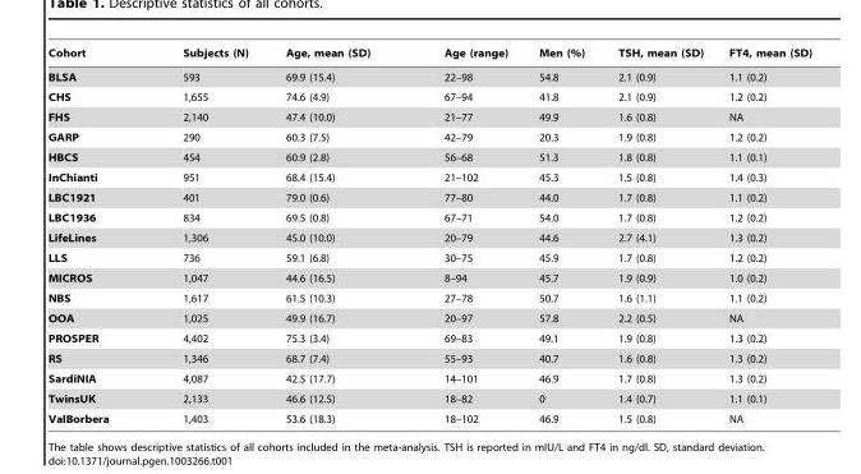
<table><thead><tr><td>Cohort</td><td>Subjects (N)</td><td>Age, mean (SD)</td><td>Age (range)</td><td>Men (%)</td><td>TSH, mean (SD)</td><td>FT4, mean (SD)</td></tr></thead><tbody><tr><td>BLSA</td><td>593</td><td>69.9 (15.4)</td><td>22–98</td><td>54.8</td><td>2.1 (0.9)</td><td>1.1 (0.2)</td></tr><tr><td>CHS</td><td>1,655</td><td>74.6 (4.9)</td><td>67–94</td><td>41.8</td><td>2.1 (0.9)</td><td>1.2 (0.2)</td></tr><tr><td>FHS</td><td>2,140</td><td>47.4 (10.0)</td><td>21–77</td><td>49.9</td><td>1.6 (0.8)</td><td>NA</td></tr><tr><td>GARP</td><td>290</td><td>60.3 (7.5)</td><td>42–79</td><td>20.3</td><td>1.9 (0.8)</td><td>1.2 (0.2)</td></tr><tr><td>HBCS</td><td>454</td><td>60.9 (2.8)</td><td>56–68</td><td>51.3</td><td>1.8 (0.8)</td><td>1.1 (0.1)</td></tr><tr><td>InChianti</td><td>951</td><td>68.4 (15.4)</td><td>21–102</td><td>45.3</td><td>1.5 (0.8)</td><td>1.4 (0.3)</td></tr><tr><td>LBC1921</td><td>401</td><td>79.0 (0.6)</td><td>77–80</td><td>44.0</td><td>1.7 (0.8)</td><td>1.1 (0.2)</td></tr><tr><td>LBC1936</td><td>834</td><td>69.5 (0.8)</td><td>67–71</td><td>54.0</td><td>1.7 (0.8)</td><td>1.2 (0.2)</td></tr><tr><td>LifeLines</td><td>1,306</td><td>45.0 (10.0)</td><td>20–79</td><td>44.6</td><td>2.7 (4.1)</td><td>1.3 (0.2)</td></tr><tr><td>LLS</td><td>736</td><td>59.1 (6.8)</td><td>30–75</td><td>45.9</td><td>1.7 (0.8)</td><td>1.2 (0.2)</td></tr><tr><td>MICROS</td><td>1,047</td><td>44.6 (16.5)</td><td>8–94</td><td>45.7</td><td>1.9 (0.9)</td><td>1.0 (0.2)</td></tr><tr><td>NBS</td><td>1,617</td><td>61.5 (10.3)</td><td>27–78</td><td>50.7</td><td>1.6 (1.1)</td><td>1.1 (0.2)</td></tr><tr><td>OOA</td><td>1,025</td><td>49.9 (16.7)</td><td>20–97</td><td>57.8</td><td>2.2 (0.5)</td><td>NA</td></tr><tr><td>PROSPER</td><td>4,402</td><td>75.3 (3.4)</td><td>69–83</td><td>49.1</td><td>1.9 (0.8)</td><td>1.3 (0.2)</td></tr><tr><td>RS</td><td>1,346</td><td>68.7 (7.4)</td><td>55–93</td><td>40.7</td><td>1.6 (0.8)</td><td>1.3 (0.2)</td></tr><tr><td>SardiNIA</td><td>4,087</td><td>42.5 (17.7)</td><td>14–101</td><td>46.9</td><td>1.7 (0.8)</td><td>1.3 (0.2)</td></tr><tr><td>TwinsUK</td><td>2,133</td><td>46.6 (12.5)</td><td>18–82</td><td>0</td><td>1.4 (0.7)</td><td>1.1 (0.1)</td></tr><tr><td>ValBorbera</td><td>1,403</td><td>53.6 (18.3)</td><td>18–102</td><td>46.9</td><td>1.5 (0.8)</td><td>NA</td></tr></tbody></table>